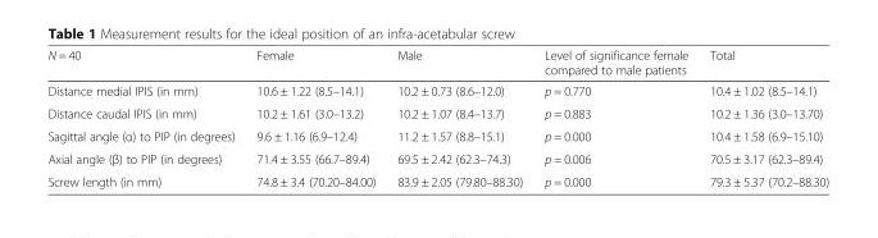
<table><thead><tr><td>N = 40</td><td>Female</td><td>Male</td><td>Level of significance female compared to male patients</td><td>Total</td></tr></thead><tbody><tr><td>Distance medial IPIS (in mm)</td><td>10.6 ± 1.22 (8.5–14.1)</td><td>10.2 ± 0.73 (8.6–12.0)</td><td>p = 0.770</td><td>10.4 ± 1.02 (8.5–14.1)</td></tr><tr><td>Distance caudal IPIS (in mm)</td><td>10.2 ± 1.61 (3.0–13.2)</td><td>10.2 ± 1.07 (8.4–13.7)</td><td>p = 0.883</td><td>10.2 ± 1.36 (3.0–13.70)</td></tr><tr><td>Sagittal angle (α) to PIP (in degrees)</td><td>9.6 ± 1.16 (6.9–12.4)</td><td>11.2 ± 1.57 (8.8–15.1)</td><td>p = 0.000</td><td>10.4 ± 1.58 (6.9–15.10)</td></tr><tr><td>Axial angle (β) to PIP (in degrees)</td><td>71.4 ± 3.55 (66.7–89.4)</td><td>69.5 ± 2.42 (62.3–74.3)</td><td>p = 0.006</td><td>70.5 ± 3.17 (62.3–89.4)</td></tr><tr><td>Screw length (in mm)</td><td>74.8 ± 3.4 (70.20–84.00)</td><td>83.9 ± 2.05 (79.80–88.30)</td><td>p = 0.000</td><td>79.3 ± 5.37 (70.2–88.30)</td></tr></tbody></table>